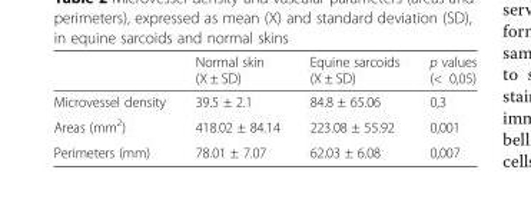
<table><thead><tr><td></td><td>Normal skin (X ± SD)</td><td>Equine sarcoids (X ± SD)</td><td>p values (&lt; 0,05)</td></tr></thead><tbody><tr><td>Microvessel density</td><td>39.5 ± 2.1</td><td>84.8 ± 65.06</td><td>0,3</td></tr><tr><td>Areas (mm<sup>2</sup>)</td><td>418.02 ± 84.14</td><td>223.08 ± 55.92</td><td>0,001</td></tr><tr><td>Perimeters (mm)</td><td>78.01 ± 7.07</td><td>62.03 ± 6.08</td><td>0,007</td></tr></tbody></table>